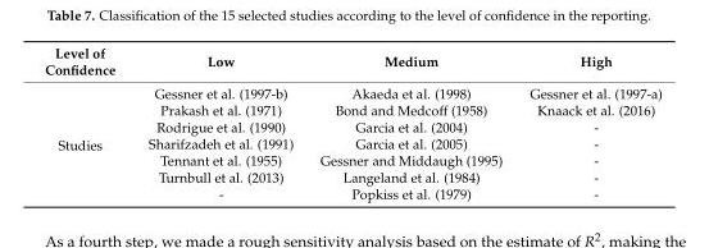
<table><thead><tr><td>Level of Confidence</td><td>Low</td><td>Medium</td><td>High</td></tr></thead><tbody><tr><td rowspan="7">Studies</td><td>Gessner et al. (1997-b)</td><td>Akaeda et al. (1998)</td><td>Gessner et al. (1997-a)</td></tr><tr><td>Prakash et al. (1971)</td><td>Bond and Medcoff (1958)</td><td>Knaack et al. (2016)</td></tr><tr><td>Rodrigue et al. (1990)</td><td>Garcia et al. (2004)</td><td>-</td></tr><tr><td>Sharifzadeh et al. (1991)</td><td>Garcia et al. (2005)</td><td>-</td></tr><tr><td>Tennant et al. (1955)</td><td>Gessner and Middaugh (1995)</td><td>-</td></tr><tr><td>Turnbull et al. (2013)</td><td>Langeland et al. (1984)</td><td>-</td></tr><tr><td>-</td><td>Popkiss et al. (1979)</td><td>-</td></tr></tbody></table>